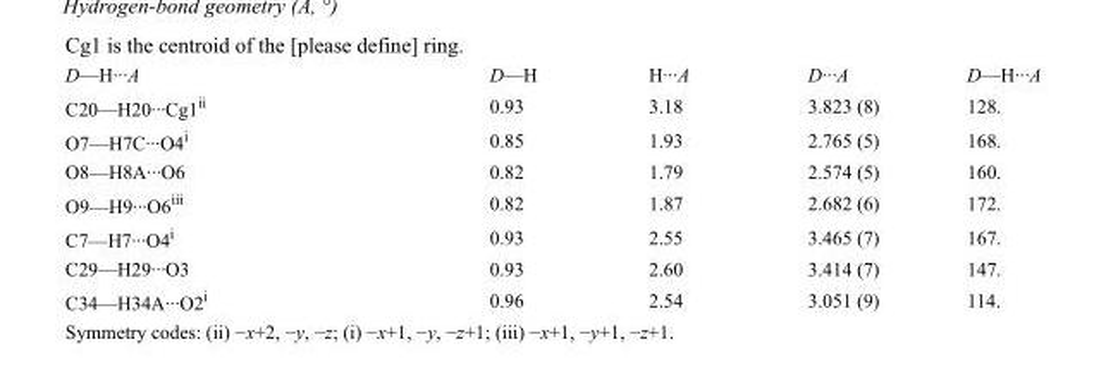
<table><tbody><tr><td>D—H···A</td><td>D—H</td><td>H···A</td><td>D···A</td><td>D—H···A</td></tr><tr><td>C20—H20···Cg1<sup>ii</sup></td><td>0.93</td><td>3.18</td><td>3.823 (8)</td><td>128.</td></tr><tr><td>O7—H7C···O4<sup>i</sup></td><td>0.85</td><td>1.93</td><td>2.765 (5)</td><td>168.</td></tr><tr><td>O8—H8A···O6</td><td>0.82</td><td>1.79</td><td>2.574 (5)</td><td>160.</td></tr><tr><td>O9—H9···O6<sup>iii</sup></td><td>0.82</td><td>1.87</td><td>2.682 (6)</td><td>172.</td></tr><tr><td>C7—H7···O4<sup>i</sup></td><td>0.93</td><td>2.55</td><td>3.465 (7)</td><td>167.</td></tr><tr><td>C29—H29···O3</td><td>0.93</td><td>2.60</td><td>3.414 (7)</td><td>147.</td></tr><tr><td>C34—H34A···O2<sup>i</sup></td><td>0.96</td><td>2.54</td><td>3.051 (9)</td><td>114.</td></tr></tbody></table>